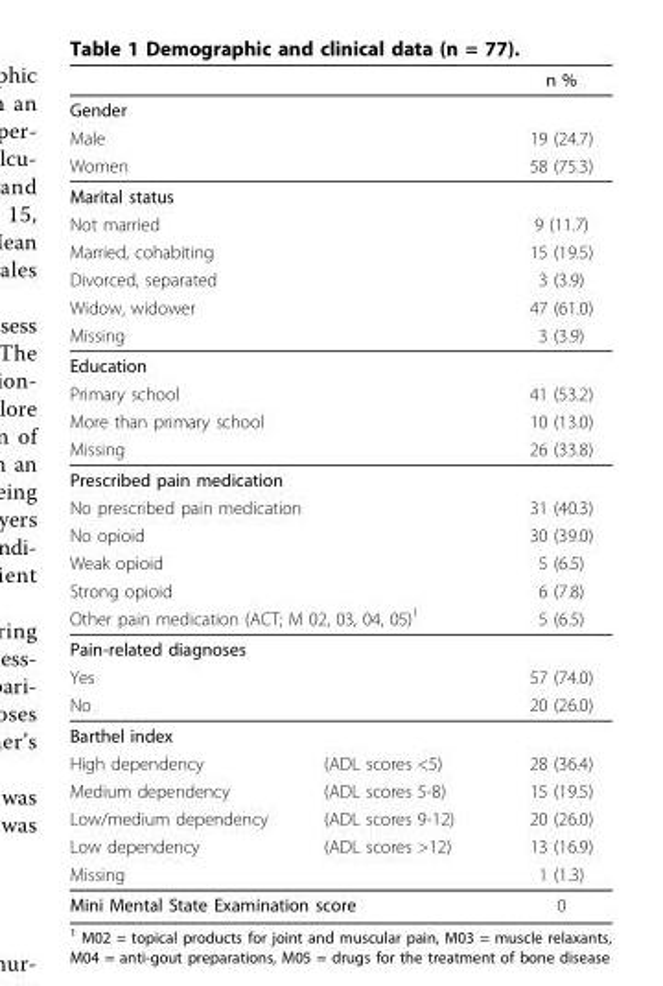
<table><thead><tr><td></td><td></td><td>n %</td></tr></thead><tbody><tr><td colspan="3">Gender</td></tr><tr><td colspan="2">Male</td><td>19 (24.7)</td></tr><tr><td colspan="2">Women</td><td>58 (75.3)</td></tr><tr><td colspan="3">Marital status</td></tr><tr><td colspan="2">Not married</td><td>9 (11.7)</td></tr><tr><td colspan="2">Married, cohabiting</td><td>15 (19.5)</td></tr><tr><td colspan="2">Divorced, separated</td><td>3 (3.9)</td></tr><tr><td colspan="2">Widow, widower</td><td>47 (61.0)</td></tr><tr><td colspan="2">Missing</td><td>3 (3.9)</td></tr><tr><td colspan="3">Education</td></tr><tr><td colspan="2">Primary school</td><td>41 (53.2)</td></tr><tr><td colspan="2">More than primary school</td><td>10 (13.0)</td></tr><tr><td colspan="2">Missing</td><td>26 (33.8)</td></tr><tr><td colspan="3">Prescribed pain medication</td></tr><tr><td colspan="2">No prescribed pain medication</td><td>31 (40.3)</td></tr><tr><td colspan="2">No opioid</td><td>30 (39.0)</td></tr><tr><td colspan="2">Weak opioid</td><td>5 (6.5)</td></tr><tr><td colspan="2">Strong opioid</td><td>6 (7.8)</td></tr><tr><td colspan="2">Other pain medication (ACT; M 02, 03, 04, 05)<sup>1</sup></td><td>5 (6.5)</td></tr><tr><td colspan="3">Pain-related diagnoses</td></tr><tr><td colspan="2">Yes</td><td>57 (74.0)</td></tr><tr><td colspan="2">No</td><td>20 (26.0)</td></tr><tr><td colspan="3">Barthel index</td></tr><tr><td>High dependency</td><td>(ADL scores &lt;5)</td><td>28 (36.4)</td></tr><tr><td>Medium dependency</td><td>(ADL scores 5-8)</td><td>15 (19.5)</td></tr><tr><td>Low/medium dependency</td><td>(ADL scores 9-12)</td><td>20 (26.0)</td></tr><tr><td>Low dependency</td><td>(ADL scores &gt;12)</td><td>13 (16.9)</td></tr><tr><td>Missing</td><td></td><td>1 (1.3)</td></tr><tr><td colspan="2">Mini Mental State Examination score</td><td>0</td></tr></tbody></table>